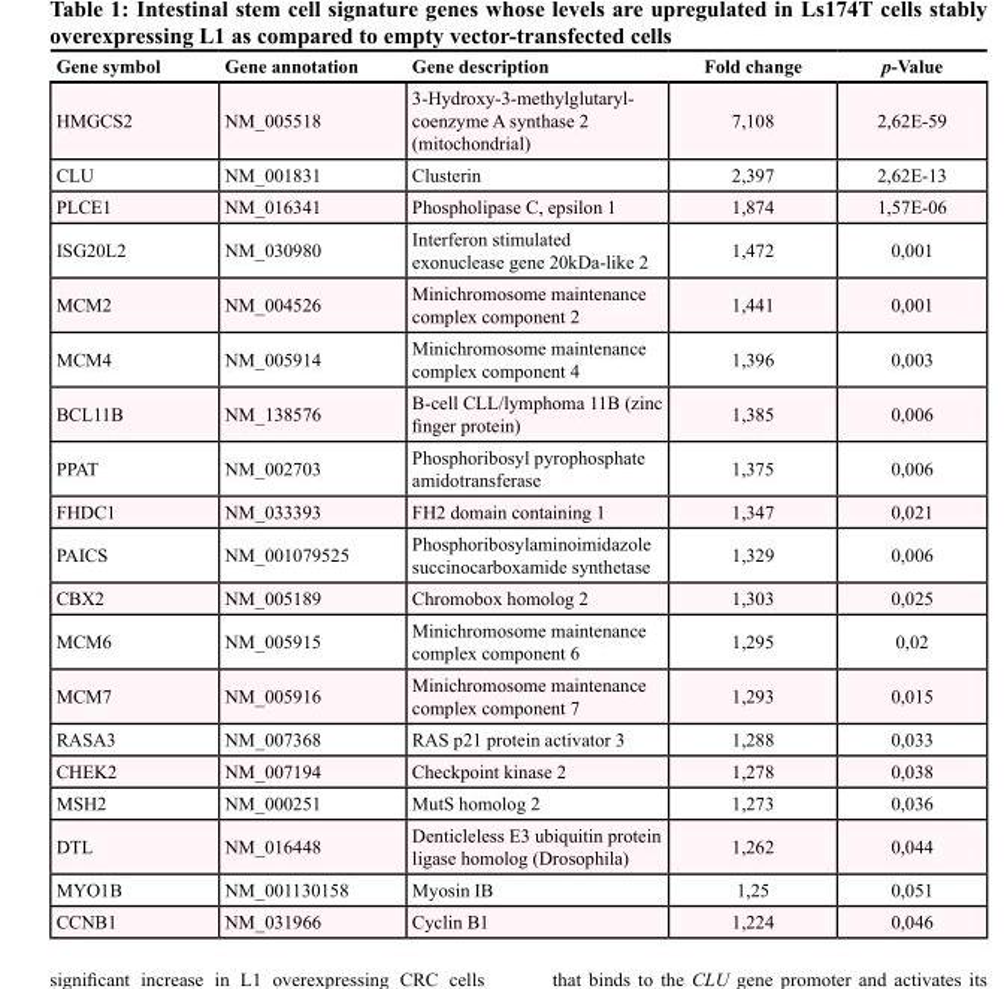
<table><thead><tr><td>Gene symbol</td><td>Gene annotation</td><td>Gene description</td><td>Fold change</td><td>p-Value</td></tr></thead><tbody><tr><td>HMGCS2</td><td>NM_005518</td><td>3-Hydroxy-3-methylglutaryl- coenzyme A synthase 2 (mitochondrial)</td><td>7,108</td><td>2,62E-59</td></tr><tr><td>CLU</td><td>NM_001831</td><td>Clusterin</td><td>2,397</td><td>2,62E-13</td></tr><tr><td>PLCE1</td><td>NM_016341</td><td>Phospholipase C, epsilon 1</td><td>1,874</td><td>1,57E-06</td></tr><tr><td>ISG20L2</td><td>NM_030980</td><td>Interferon stimulated exonuclease gene 20kDa-like 2</td><td>1,472</td><td>0,001</td></tr><tr><td>MCM2</td><td>NM_004526</td><td>Minichromosome maintenance complex component 2</td><td>1,441</td><td>0,001</td></tr><tr><td>MCM4</td><td>NM_005914</td><td>Minichromosome maintenance complex component 4</td><td>1,396</td><td>0,003</td></tr><tr><td>BCL11B</td><td>NM_138576</td><td>B-cell CLL/lymphoma 11B (zinc finger protein)</td><td>1,385</td><td>0,006</td></tr><tr><td>PPAT</td><td>NM_002703</td><td>Phosphoribosyl pyrophosphate amidotransferase</td><td>1,375</td><td>0,006</td></tr><tr><td>FHDC1</td><td>NM_033393</td><td>FH2 domain containing 1</td><td>1,347</td><td>0,021</td></tr><tr><td>PAICS</td><td>NM_001079525</td><td>Phosphoribosylaminoimidazole succinocarboxamide synthetase</td><td>1,329</td><td>0,006</td></tr><tr><td>CBX2</td><td>NM_005189</td><td>Chromobox homolog 2</td><td>1,303</td><td>0,025</td></tr><tr><td>MCM6</td><td>NM_005915</td><td>Minichromosome maintenance complex component 6</td><td>1,295</td><td>0,02</td></tr><tr><td>MCM7</td><td>NM_005916</td><td>Minichromosome maintenance complex component 7</td><td>1,293</td><td>0,015</td></tr><tr><td>RASA3</td><td>NM_007368</td><td>RAS p21 protein activator 3</td><td>1,288</td><td>0,033</td></tr><tr><td>CHEK2</td><td>NM_007194</td><td>Checkpoint kinase 2</td><td>1,278</td><td>0,038</td></tr><tr><td>MSH2</td><td>NM_000251</td><td>MutS homolog 2</td><td>1,273</td><td>0,036</td></tr><tr><td>DTL</td><td>NM_016448</td><td>Denticleless E3 ubiquitin protein ligase homolog (Drosophila)</td><td>1,262</td><td>0,044</td></tr><tr><td>MYO1B</td><td>NM_001130158</td><td>Myosin IB</td><td>1,25</td><td>0,051</td></tr><tr><td>CCNB1</td><td>NM_031966</td><td>Cyclin B1</td><td>1,224</td><td>0,046</td></tr></tbody></table>